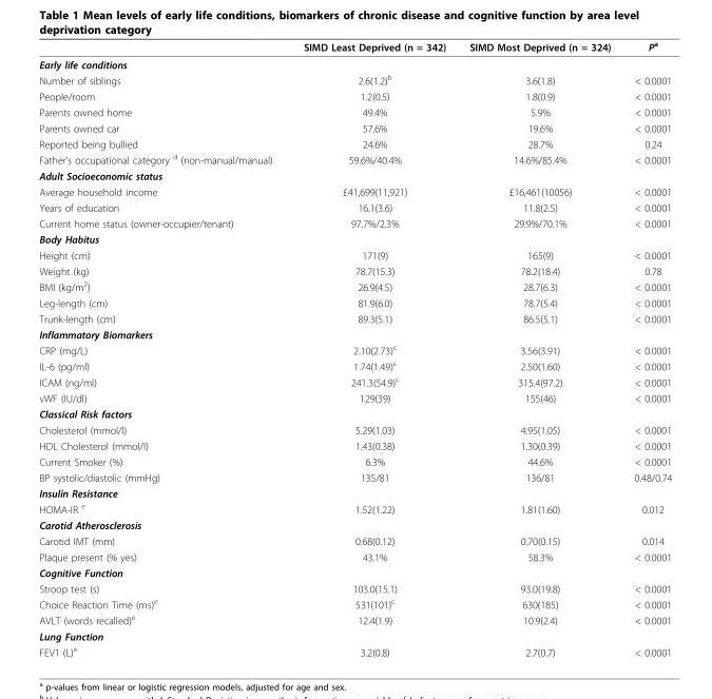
<table><thead><tr><td></td><td>SIMD Least Deprived (n = 342)</td><td>SIMD Most Deprived (n = 324)</td><td>P<sup>a</sup></td></tr></thead><tbody><tr><td colspan="4">Early life conditions</td></tr><tr><td>Number of siblings</td><td>2.6(1.2)<sup>b</sup></td><td>3.6(1.8)</td><td>&lt; 0.0001</td></tr><tr><td>People/room</td><td>1.2(0.5)</td><td>1.8(0.9)</td><td>&lt; 0.0001</td></tr><tr><td>Parents owned home</td><td>49.4%</td><td>5.9%</td><td>&lt; 0.0001</td></tr><tr><td>Parents owned car</td><td>57.6%</td><td>19.6%</td><td>&lt; 0.0001</td></tr><tr><td>Reported being bullied</td><td>24.6%</td><td>28.7%</td><td>0.24</td></tr><tr><td>Father’s occupational category <sup>d</sup> (non-manual/manual)</td><td>59.6%/40.4%</td><td>14.6%/85.4%</td><td>&lt; 0.0001</td></tr><tr><td colspan="4">Adult Socioeconomic status</td></tr><tr><td>Average household income</td><td>£41,699(11,921)</td><td>£16,461(10056)</td><td>&lt; 0.0001</td></tr><tr><td>Years of education</td><td>16.1(3.6)</td><td>11.8(2.5)</td><td>&lt; 0.0001</td></tr><tr><td>Current home status (owner-occupier/tenant)</td><td>97.7%/2.3%</td><td>29.9%/70.1%</td><td>&lt; 0.0001</td></tr><tr><td colspan="4">Body Habitus</td></tr><tr><td>Height (cm)</td><td>171(9)</td><td>165(9)</td><td>&lt; 0.0001</td></tr><tr><td>Weight (kg)</td><td>78.7(15.3)</td><td>78.2(18.4)</td><td>0.78</td></tr><tr><td>BMI (kg/m<sup>2</sup>)</td><td>26.9(4.5)</td><td>28.7(6.3)</td><td>&lt; 0.0001</td></tr><tr><td>Leg-length (cm)</td><td>81.9(6.0)</td><td>78.7(5.4)</td><td>&lt; 0.0001</td></tr><tr><td>Trunk-length (cm)</td><td>89.3(5.1)</td><td>86.5(5.1)</td><td>&lt; 0.0001</td></tr><tr><td colspan="4">Inflammatory Biomarkers</td></tr><tr><td>CRP (mg/L)</td><td>2.10(2.73)<sup>c</sup></td><td>3.56(3.91)</td><td>&lt; 0.0001</td></tr><tr><td>IL-6 (pg/ml)</td><td>1.74(1.49)<sup>c</sup></td><td>2.50(1.60)</td><td>&lt; 0.0001</td></tr><tr><td>ICAM (ng/ml)</td><td>241.3(54.9)<sup>c</sup></td><td>315.4(97.2)</td><td>&lt; 0.0001</td></tr><tr><td>vWF (IU/dl)</td><td>129(39)</td><td>155(46)</td><td>&lt; 0.0001</td></tr><tr><td colspan="4">Classical Risk factors</td></tr><tr><td>Cholesterol (mmol/l)</td><td>5.29(1.03)</td><td>4.95(1.05)</td><td>&lt; 0.0001</td></tr><tr><td>HDL Cholesterol (mmol/l)</td><td>1.43(0.38)</td><td>1.30(0.39)</td><td>&lt; 0.0001</td></tr><tr><td>Current Smoker (%)</td><td>6.3%</td><td>44.6%</td><td>&lt; 0.0001</td></tr><tr><td>BP systolic/diastolic (mmHg)</td><td>135/81</td><td>136/81</td><td>0.48/0.74</td></tr><tr><td colspan="4">Insulin Resistance</td></tr><tr><td>HOMA-IR <sup>e</sup></td><td>1.52(1.22)</td><td>1.81(1.60)</td><td>0.012</td></tr><tr><td colspan="4">Carotid Atherosclerosis</td></tr><tr><td>Carotid IMT (mm)</td><td>0.68(0.12)</td><td>0.70(0.15)</td><td>0.014</td></tr><tr><td>Plaque present (% yes)</td><td>43.1%</td><td>58.3%</td><td>&lt; 0.0001</td></tr><tr><td colspan="4">Cognitive Function</td></tr><tr><td>Stroop test (s)</td><td>103.0(15.1)</td><td>93.0(19.8)</td><td>&lt; 0.0001</td></tr><tr><td>Choice Reaction Time (ms)<sup>e</sup></td><td>531(101)<sup>c</sup></td><td>630(185)</td><td>&lt; 0.0001</td></tr><tr><td>AVLT (words recalled)<sup>e</sup></td><td>12.4(1.9)</td><td>10.9(2.4)</td><td>&lt; 0.0001</td></tr><tr><td colspan="4">Lung Function</td></tr><tr><td>FEV1 (L)<sup>e</sup></td><td>3.2(0.8)</td><td>2.7(0.7)</td><td>&lt; 0.0001</td></tr></tbody></table>